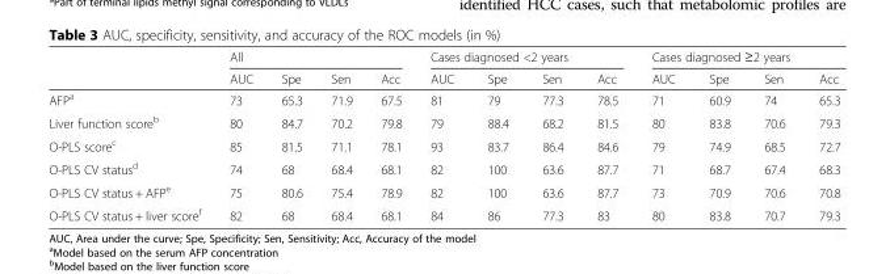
<table><thead><tr><td rowspan="2"></td><td colspan="4">All</td><td colspan="4">Cases diagnosed &lt;2 years</td><td colspan="4">Cases diagnosed ≥2 years</td></tr><tr><td>AUC</td><td>Spe</td><td>Sen</td><td>Acc</td><td>AUC</td><td>Spe</td><td>Sen</td><td>Acc</td><td>AUC</td><td>Spe</td><td>Sen</td><td>Acc</td></tr></thead><tbody><tr><td>AFP<sup>a</sup></td><td>73</td><td>65.3</td><td>71.9</td><td>67.5</td><td>81</td><td>79</td><td>77.3</td><td>78.5</td><td>71</td><td>60.9</td><td>74</td><td>65.3</td></tr><tr><td>Liver function score<sup>b</sup></td><td>80</td><td>84.7</td><td>70.2</td><td>79.8</td><td>79</td><td>88.4</td><td>68.2</td><td>81.5</td><td>80</td><td>83.8</td><td>70.6</td><td>79.3</td></tr><tr><td>O-PLS score<sup>c</sup></td><td>85</td><td>81.5</td><td>71.1</td><td>78.1</td><td>93</td><td>83.7</td><td>86.4</td><td>84.6</td><td>79</td><td>74.9</td><td>68.5</td><td>72.7</td></tr><tr><td>O-PLS CV status<sup>d</sup></td><td>74</td><td>68</td><td>68.4</td><td>68.1</td><td>82</td><td>100</td><td>63.6</td><td>87.7</td><td>71</td><td>68.7</td><td>67.4</td><td>68.3</td></tr><tr><td>O-PLS CV status + AFP<sup>e</sup></td><td>75</td><td>80.6</td><td>75.4</td><td>78.9</td><td>82</td><td>100</td><td>63.6</td><td>87.7</td><td>73</td><td>70.9</td><td>70.6</td><td>70.8</td></tr><tr><td>O-PLS CV status + liver score<sup>f</sup></td><td>82</td><td>68</td><td>68.4</td><td>68.1</td><td>84</td><td>86</td><td>77.3</td><td>83</td><td>80</td><td>83.8</td><td>70.7</td><td>79.3</td></tr></tbody></table>